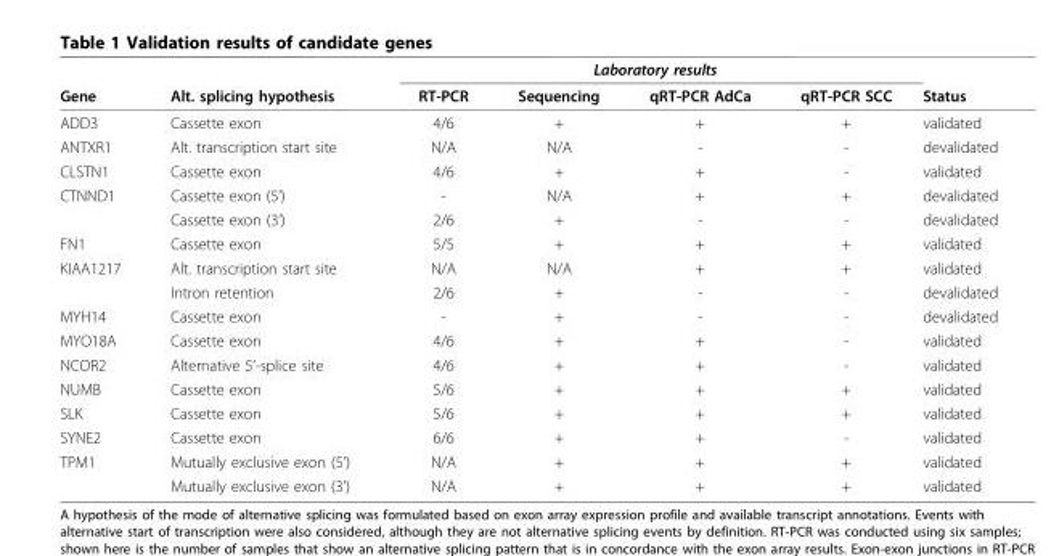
<table><thead><tr><td rowspan="2">Gene</td><td rowspan="2">Alt. splicing hypothesis</td><td colspan="4">Laboratory results</td><td rowspan="2">Status</td></tr><tr><td>RT-PCR</td><td>Sequencing</td><td>qRT-PCR AdCa</td><td>qRT-PCR SCC</td></tr></thead><tbody><tr><td>ADD3</td><td>Cassette exon</td><td>4/6</td><td>+</td><td>+</td><td>+</td><td>validated</td></tr><tr><td>ANTXR1</td><td>Alt. transcription start site</td><td>N/A</td><td>N/A</td><td>-</td><td>-</td><td>devalidated</td></tr><tr><td>CLSTN1</td><td>Cassette exon</td><td>4/6</td><td>+</td><td>+</td><td>-</td><td>validated</td></tr><tr><td rowspan="2">CTNND1</td><td>Cassette exon (5’)</td><td>-</td><td>N/A</td><td>+</td><td>+</td><td>devalidated</td></tr><tr><td>Cassette exon (3’)</td><td>2/6</td><td>+</td><td>-</td><td>-</td><td>devalidated</td></tr><tr><td>FN1</td><td>Cassette exon</td><td>5/5</td><td>+</td><td>+</td><td>+</td><td>validated</td></tr><tr><td rowspan="2">KIAA1217</td><td>Alt. transcription start site</td><td>N/A</td><td>N/A</td><td>+</td><td>+</td><td>validated</td></tr><tr><td>Intron retention</td><td>2/6</td><td>+</td><td>-</td><td>-</td><td>devalidated</td></tr><tr><td>MYH14</td><td>Cassette exon</td><td>-</td><td>+</td><td>-</td><td>-</td><td>devalidated</td></tr><tr><td>MYO18A</td><td>Cassette exon</td><td>4/6</td><td>+</td><td>+</td><td>-</td><td>validated</td></tr><tr><td>NCOR2</td><td>Alternative 5’-splice site</td><td>4/6</td><td>+</td><td>+</td><td>-</td><td>validated</td></tr><tr><td>NUMB</td><td>Cassette exon</td><td>5/6</td><td>+</td><td>+</td><td>+</td><td>validated</td></tr><tr><td>SLK</td><td>Cassette exon</td><td>5/6</td><td>+</td><td>+</td><td>+</td><td>validated</td></tr><tr><td>SYNE2</td><td>Cassette exon</td><td>6/6</td><td>+</td><td>+</td><td>-</td><td>validated</td></tr><tr><td rowspan="2">TPM1</td><td>Mutually exclusive exon (5’)</td><td>N/A</td><td>+</td><td>+</td><td>+</td><td>validated</td></tr><tr><td>Mutually exclusive exon (3’)</td><td>N/A</td><td>+</td><td>+</td><td>+</td><td>validated</td></tr></tbody></table>